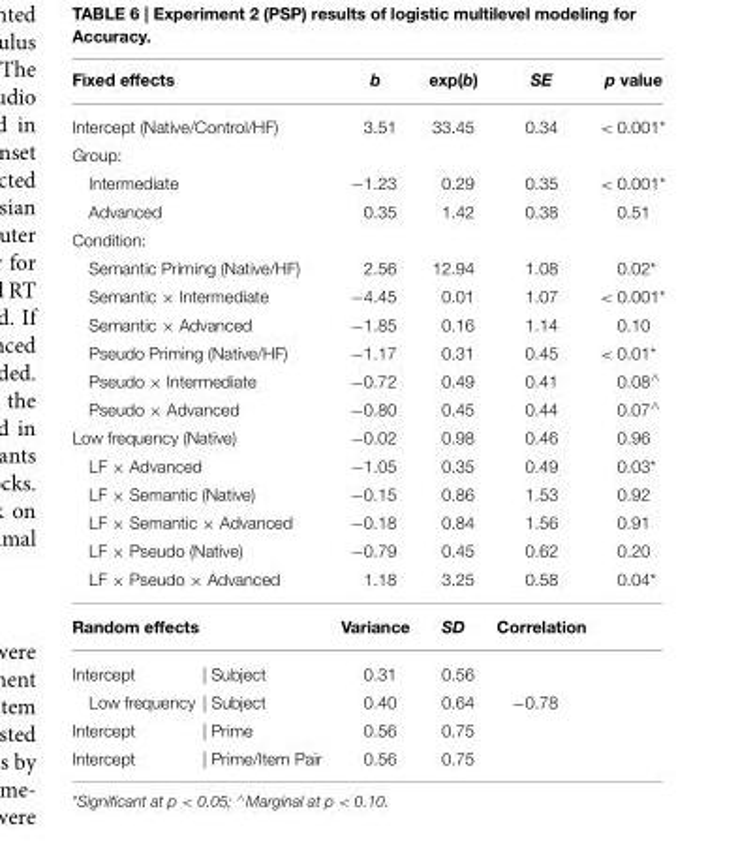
<table><thead><tr><td>Fixed effects</td><td>b</td><td>exp(b)</td><td>SE</td><td>p value</td></tr></thead><tbody><tr><td>Intercept (Native/Control/HF)</td><td>3.51</td><td>33.45</td><td>0.34</td><td>&lt; 0.001*</td></tr><tr><td colspan="5">Group:</td></tr><tr><td>Intermediate</td><td>−1.23</td><td>0.29</td><td>0.35</td><td>&lt; 0.001*</td></tr><tr><td>Advanced</td><td>0.35</td><td>1.42</td><td>0.38</td><td>0.51</td></tr><tr><td colspan="5">Condition:</td></tr><tr><td>Semantic Priming (Native/HF)</td><td>2.56</td><td>12.94</td><td>1.08</td><td>0.02*</td></tr><tr><td>Semantic × Intermediate</td><td>−4.45</td><td>0.01</td><td>1.07</td><td>&lt; 0.001*</td></tr><tr><td>Semantic × Advanced</td><td>−1.85</td><td>0.16</td><td>1.14</td><td>0.10</td></tr><tr><td>Pseudo Priming (Native/HF)</td><td>−1.17</td><td>0.31</td><td>0.45</td><td>&lt; 0.01*</td></tr><tr><td>Pseudo × Intermediate</td><td>−0.72</td><td>0.49</td><td>0.41</td><td>0.08<sup>∧</sup></td></tr><tr><td>Pseudo × Advanced</td><td>−0.80</td><td>0.45</td><td>0.44</td><td>0.07<sup>∧</sup></td></tr><tr><td>Low frequency (Native)</td><td>−0.02</td><td>0.98</td><td>0.46</td><td>0.96</td></tr><tr><td>LF × Advanced</td><td>−1.05</td><td>0.35</td><td>0.49</td><td>0.03*</td></tr><tr><td>LF × Semantic (Native)</td><td>−0.15</td><td>0.86</td><td>1.53</td><td>0.92</td></tr><tr><td>LF × Semantic × Advanced</td><td>−0.18</td><td>0.84</td><td>1.56</td><td>0.91</td></tr><tr><td>LF × Pseudo (Native)</td><td>−0.79</td><td>0.45</td><td>0.62</td><td>0.20</td></tr><tr><td>LF × Pseudo × Advanced</td><td>1.18</td><td>3.25</td><td>0.58</td><td>0.04*</td></tr><tr><td>Random effects</td><td>Variance</td><td>SD</td><td>Correlation</td><td></td></tr><tr><td>Intercept | Subject</td><td>0.31</td><td>0.56</td><td></td><td></td></tr><tr><td>Low frequency | Subject</td><td>0.40</td><td>0.64</td><td>−0.78</td><td></td></tr><tr><td>Intercept | Prime</td><td>0.56</td><td>0.75</td><td></td><td></td></tr><tr><td>Intercept | Prime/Item Pair</td><td>0.56</td><td>0.75</td><td></td><td></td></tr></tbody></table>